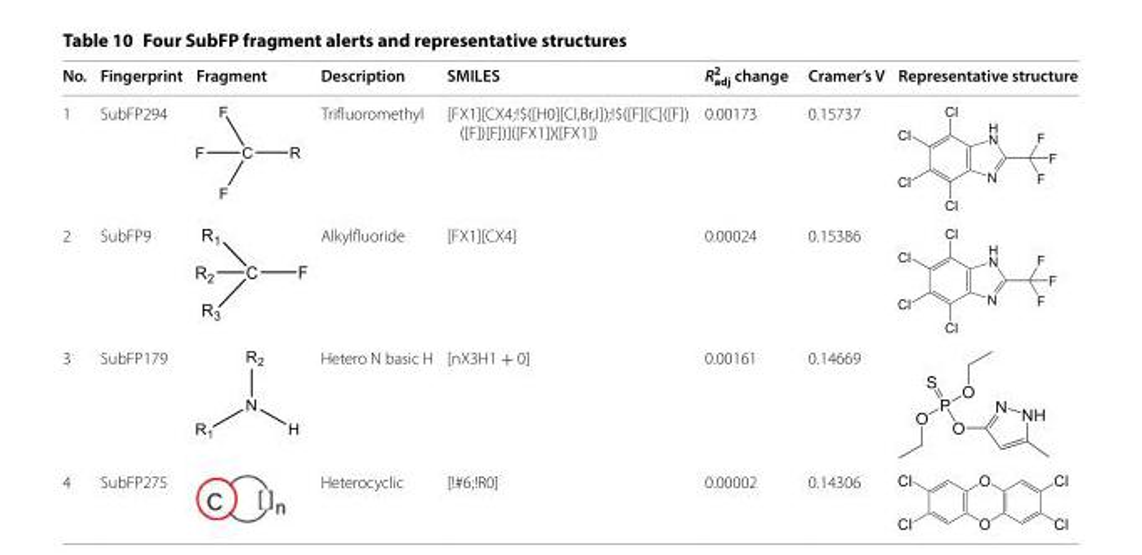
<table><thead><tr><td>No.</td><td>Fingerprint</td><td>Fragment</td><td>Description</td><td>SMILES</td><td>R2 adj change</td><td>Cramer’s V</td><td>Representative structure</td></tr></thead><tbody><tr><td>1</td><td>SubFP294</td><td></td><td>Trifluoromethyl</td><td>[FX1][CX4;!$([H0][Cl,Br,I]);!$([F][C]([F]) ([F])[F])]([FX1])([FX1])</td><td>0.00173</td><td>0.15737</td><td></td></tr><tr><td>2</td><td>SubFP9</td><td></td><td>Alkylfluoride</td><td>[FX1][CX4]</td><td>0.00024</td><td>0.15386</td><td></td></tr><tr><td>3</td><td>SubFP179</td><td></td><td>Hetero N basic H</td><td>[nX3H1 + 0]</td><td>0.00161</td><td>0.14669</td><td></td></tr><tr><td>4</td><td>SubFP275</td><td></td><td>Heterocyclic</td><td>[!#6;!R0]</td><td>0.00002</td><td>0.14306</td><td></td></tr></tbody></table>